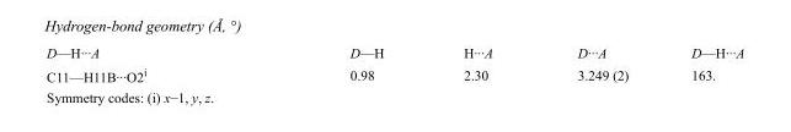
<table><tbody><tr><td>D—H···A</td><td>D—H</td><td>H···A</td><td>D···A</td><td>D—H···A</td></tr><tr><td>C11—H11B···O2<sup>i</sup></td><td>0.98</td><td>2.30</td><td>3.249 (2)</td><td>163.</td></tr></tbody></table>